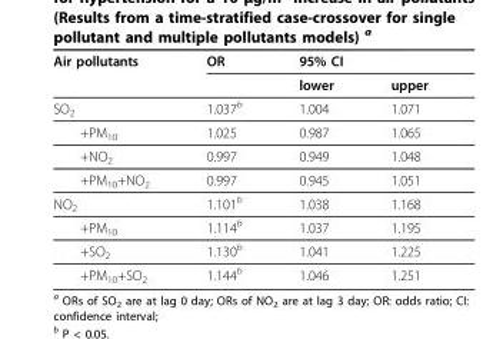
<table><thead><tr><td rowspan="2">Air pollutants</td><td rowspan="2">OR</td><td colspan="2">95% CI</td></tr><tr><td>lower</td><td>upper</td></tr></thead><tbody><tr><td>SO<sub>2</sub></td><td>1.037<sup>b</sup></td><td>1.004</td><td>1.071</td></tr><tr><td>+PM<sub>10</sub></td><td>1.025</td><td>0.987</td><td>1.065</td></tr><tr><td>+NO<sub>2</sub></td><td>0.997</td><td>0.949</td><td>1.048</td></tr><tr><td>+PM<sub>10</sub>+NO<sub>2</sub></td><td>0.997</td><td>0.945</td><td>1.051</td></tr><tr><td>NO<sub>2</sub></td><td>1.101<sup>b</sup></td><td>1.038</td><td>1.168</td></tr><tr><td>+PM<sub>10</sub></td><td>1.114<sup>b</sup></td><td>1.037</td><td>1.195</td></tr><tr><td>+SO<sub>2</sub></td><td>1.130<sup>b</sup></td><td>1.041</td><td>1.225</td></tr><tr><td>+PM<sub>10</sub>+SO<sub>2</sub></td><td>1.144<sup>b</sup></td><td>1.046</td><td>1.251</td></tr></tbody></table>